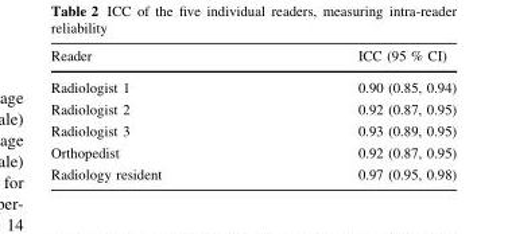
<table><thead><tr><td>Reader</td><td>ICC (95 % CI)</td></tr></thead><tbody><tr><td>Radiologist 1</td><td>0.90 (0.85, 0.94)</td></tr><tr><td>Radiologist 2</td><td>0.92 (0.87, 0.95)</td></tr><tr><td>Radiologist 3</td><td>0.93 (0.89, 0.95)</td></tr><tr><td>Orthopedist</td><td>0.92 (0.87, 0.95)</td></tr><tr><td>Radiology resident</td><td>0.97 (0.95, 0.98)</td></tr></tbody></table>